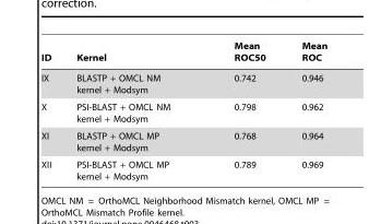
<table><thead><tr><td>ID</td><td>Kernel</td><td>Mean ROC50</td><td>Mean ROC</td></tr></thead><tbody><tr><td>IX</td><td>BLASTP + OMCL NM kernel + Modsym</td><td>0.742</td><td>0.946</td></tr><tr><td>X</td><td>PSI-BLAST + OMCL NM kernel + Modsym</td><td>0.798</td><td>0.962</td></tr><tr><td>XI</td><td>BLASTP + OMCL MP kernel + Modsym</td><td>0.768</td><td>0.964</td></tr><tr><td>XII</td><td>PSI-BLAST + OMCL MP kernel + Modsym</td><td>0.789</td><td>0.969</td></tr></tbody></table>